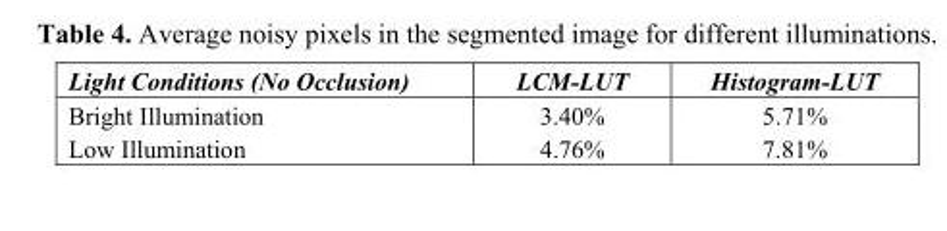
<table><thead><tr><td>Light Conditions (No Occlusion)</td><td>LCM-LUT</td><td>Histogram-LUT</td></tr></thead><tbody><tr><td>Bright Illumination</td><td>3.40%</td><td>5.71%</td></tr><tr><td>Low Illumination</td><td>4.76%</td><td>7.81%</td></tr></tbody></table>